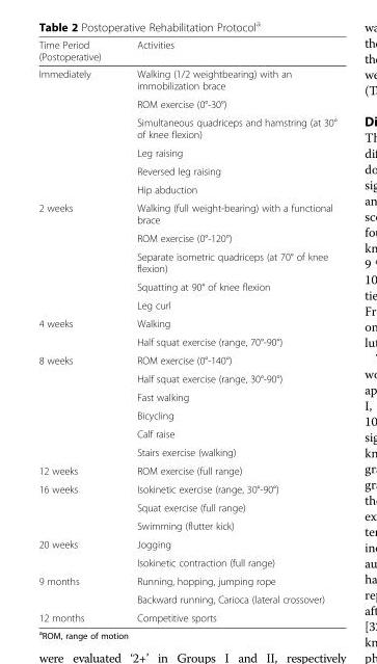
<table><thead><tr><td>Time Period (Postoperative)</td><td>Activities</td></tr></thead><tbody><tr><td rowspan="6">Immediately</td><td>Walking (1/2 weightbearing) with an immobilization brace</td></tr><tr><td>ROM exercise (0°-30°)</td></tr><tr><td>Simultaneous quadriceps and hamstring (at 30° of knee flexion)</td></tr><tr><td>Leg raising</td></tr><tr><td>Reversed leg raising</td></tr><tr><td>Hip abduction</td></tr><tr><td rowspan="5">2 weeks</td><td>Walking (full weight-bearing) with a functional brace</td></tr><tr><td>ROM exercise (0°-120°)</td></tr><tr><td>Separate isometric quadriceps (at 70° of knee flexion)</td></tr><tr><td>Squatting at 90° of knee flexion</td></tr><tr><td>Leg curl</td></tr><tr><td rowspan="2">4 weeks</td><td>Walking</td></tr><tr><td>Half squat exercise (range, 70°-90°)</td></tr><tr><td rowspan="6">8 weeks</td><td>ROM exercise (0°-140°)</td></tr><tr><td>Half squat exercise (range, 30°-90°)</td></tr><tr><td>Fast walking</td></tr><tr><td>Bicycling</td></tr><tr><td>Calf raise</td></tr><tr><td>Stairs exercise (walking)</td></tr><tr><td>12 weeks</td><td>ROM exercise (full range)</td></tr><tr><td rowspan="3">16 weeks</td><td>Isokinetic exercise (range, 30°-90°)</td></tr><tr><td>Squat exercise (full range)</td></tr><tr><td>Swimming (flutter kick)</td></tr><tr><td rowspan="2">20 weeks</td><td>Jogging</td></tr><tr><td>Isokinetic contraction (full range)</td></tr><tr><td rowspan="2">9 months</td><td>Running, hopping, jumping rope</td></tr><tr><td>Backward running, Carioca (lateral crossover)</td></tr><tr><td>12 months</td><td>Competitive sports</td></tr></tbody></table>